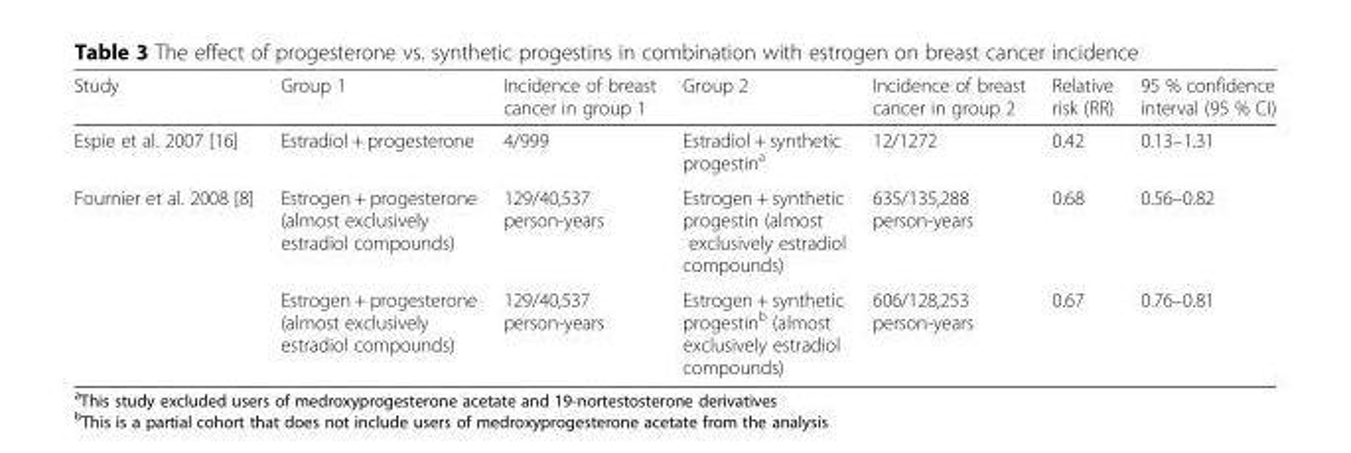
<table><thead><tr><td>Study</td><td>Group 1</td><td>Incidence of breast cancer in group 1</td><td>Group 2</td><td>Incidence of breast cancer in group 2</td><td>Relative risk (RR)</td><td>95 % confidence interval (95 % CI)</td></tr></thead><tbody><tr><td>Espie et al. 2007 [16]</td><td>Estradiol + progesterone</td><td>4/999</td><td>Estradiol + synthetic progestin<sup>a</sup></td><td>12/1272</td><td>0.42</td><td>0.13–1.31</td></tr><tr><td rowspan="2">Fournier et al. 2008 [8]</td><td>Estrogen + progesterone (almost exclusively estradiol compounds)</td><td>129/40,537 person-years</td><td>Estrogen + synthetic progestin (almost exclusively estradiol compounds)</td><td>635/135,288 person-years</td><td>0.68</td><td>0.56–0.82</td></tr><tr><td>Estrogen + progesterone (almost exclusively estradiol compounds)</td><td>129/40,537 person-years</td><td>Estrogen + synthetic progestin<sup>b</sup> (almost exclusively estradiol compounds)</td><td>606/128,253 person-years</td><td>0.67</td><td>0.76–0.81</td></tr></tbody></table>